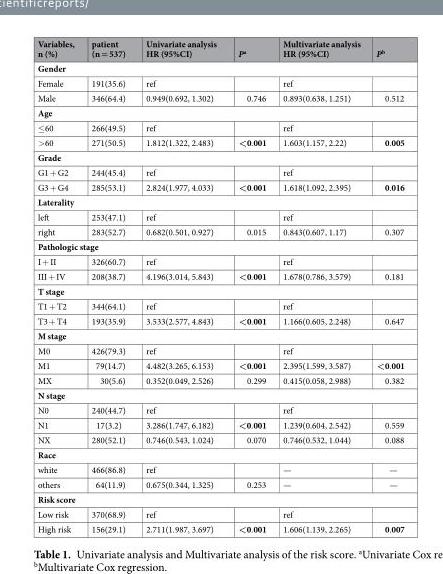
<table><thead><tr><td>Variables, n (%)</td><td>patient (n = 537)</td><td>Univariate analysis HR (95%CI)</td><td>P<sup>a</sup></td><td>Multivariate analysis HR (95%CI)</td><td>P<sup>b</sup></td></tr></thead><tbody><tr><td colspan="6">Gender</td></tr><tr><td>Female</td><td>191(35.6)</td><td>ref</td><td></td><td>ref</td><td></td></tr><tr><td>Male</td><td>346(64.4)</td><td>0.949(0.692, 1.302)</td><td>0.746</td><td>0.893(0.638, 1.251)</td><td>0.512</td></tr><tr><td colspan="6">Age</td></tr><tr><td>≤60</td><td>266(49.5)</td><td>ref</td><td></td><td>ref</td><td></td></tr><tr><td>&gt;60</td><td>271(50.5)</td><td>1.812(1.322, 2.483)</td><td>&lt;0.001</td><td>1.603(1.157, 2.22)</td><td>0.005</td></tr><tr><td colspan="6">Grade</td></tr><tr><td>G1 + G2</td><td>244(45.4)</td><td>ref</td><td></td><td>ref</td><td></td></tr><tr><td>G3 + G4</td><td>285(53.1)</td><td>2.824(1.977, 4.033)</td><td>&lt;0.001</td><td>1.618(1.092, 2.395)</td><td>0.016</td></tr><tr><td colspan="6">Laterality</td></tr><tr><td>left</td><td>253(47.1)</td><td>ref</td><td></td><td>ref</td><td></td></tr><tr><td>right</td><td>283(52.7)</td><td>0.682(0.501, 0.927)</td><td>0.015</td><td>0.843(0.607, 1.17)</td><td>0.307</td></tr><tr><td colspan="6">Pathologic stage</td></tr><tr><td>I + II</td><td>326(60.7)</td><td>ref</td><td></td><td>ref</td><td></td></tr><tr><td>III + IV</td><td>208(38.7)</td><td>4.196(3.014, 5.843)</td><td>&lt;0.001</td><td>1.678(0.786, 3.579)</td><td>0.181</td></tr><tr><td colspan="6">T stage</td></tr><tr><td>T1 + T2</td><td>344(64.1)</td><td>ref</td><td></td><td>ref</td><td></td></tr><tr><td>T3 + T4</td><td>193(35.9)</td><td>3.533(2.577, 4.843)</td><td>&lt;0.001</td><td>1.166(0.605, 2.248)</td><td>0.647</td></tr><tr><td colspan="6">M stage</td></tr><tr><td>M0</td><td>426(79.3)</td><td>ref</td><td></td><td>ref</td><td></td></tr><tr><td>M1</td><td>79(14.7)</td><td>4.482(3.265, 6.153)</td><td>&lt;0.001</td><td>2.395(1.599, 3.587)</td><td>&lt;0.001</td></tr><tr><td>MX</td><td>30(5.6)</td><td>0.352(0.049, 2.526)</td><td>0.299</td><td>0.415(0.058, 2.988)</td><td>0.382</td></tr><tr><td colspan="6">N stage</td></tr><tr><td>N0</td><td>240(44.7)</td><td>ref</td><td></td><td>ref</td><td></td></tr><tr><td>N1</td><td>17(3.2)</td><td>3.286(1.747, 6.182)</td><td>&lt;0.001</td><td>1.239(0.604, 2.542)</td><td>0.559</td></tr><tr><td>NX</td><td>280(52.1)</td><td>0.746(0.543, 1.024)</td><td>0.070</td><td>0.746(0.532, 1.044)</td><td>0.088</td></tr><tr><td colspan="6">Race</td></tr><tr><td>white</td><td>466(86.8)</td><td>ref</td><td></td><td>—</td><td>—</td></tr><tr><td>others</td><td>64(11.9)</td><td>0.675(0.344, 1.325)</td><td>0.253</td><td>—</td><td>—</td></tr><tr><td colspan="6">Risk score</td></tr><tr><td>Low risk</td><td>370(68.9)</td><td>ref</td><td></td><td>ref</td><td></td></tr><tr><td>High risk</td><td>156(29.1)</td><td>2.711(1.987, 3.697)</td><td>&lt;0.001</td><td>1.606(1.139, 2.265)</td><td>0.007</td></tr></tbody></table>